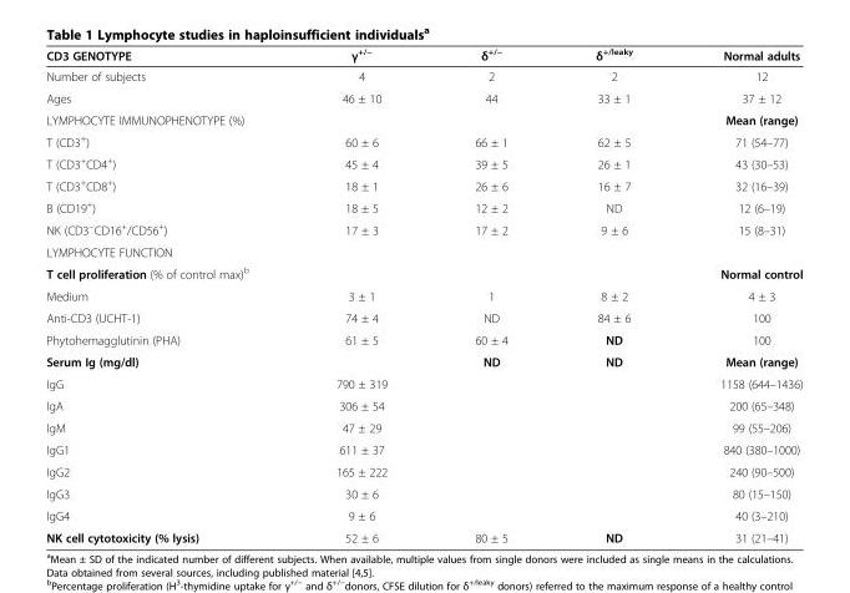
<table><thead><tr><td>CD3 GENOTYPE</td><td>γ<sup>+/−</sup></td><td>δ<sup>+/−</sup></td><td>δ<sup>+/leaky</sup></td><td>Normal adults</td></tr></thead><tbody><tr><td>Number of subjects</td><td>4</td><td>2</td><td>2</td><td>12</td></tr><tr><td>Ages</td><td>46 ± 10</td><td>44</td><td>33 ± 1</td><td>37 ± 12</td></tr><tr><td>LYMPHOCYTE IMMUNOPHENOTYPE (%)</td><td></td><td></td><td></td><td>Mean (range)</td></tr><tr><td>T (CD3<sup>+</sup>)</td><td>60 ± 6</td><td>66 ± 1</td><td>62 ± 5</td><td>71 (54–77)</td></tr><tr><td>T (CD3<sup>+</sup>CD4<sup>+</sup>)</td><td>45 ± 4</td><td>39 ± 5</td><td>26 ± 1</td><td>43 (30–53)</td></tr><tr><td>T (CD3<sup>+</sup>CD8<sup>+</sup>)</td><td>18 ± 1</td><td>26 ± 6</td><td>16 ± 7</td><td>32 (16–39)</td></tr><tr><td>B (CD19<sup>+</sup>)</td><td>18 ± 5</td><td>12 ± 2</td><td>ND</td><td>12 (6–19)</td></tr><tr><td>NK (CD3<sup>−</sup>CD16<sup>+</sup>/CD56<sup>+</sup>)</td><td>17 ± 3</td><td>17 ± 2</td><td>9 ± 6</td><td>15 (8–31)</td></tr><tr><td colspan="5">LYMPHOCYTE FUNCTION</td></tr><tr><td>T cell proliferation (% of control max)<sup>b</sup></td><td></td><td></td><td></td><td>Normal control</td></tr><tr><td>Medium</td><td>3 ± 1</td><td>1</td><td>8 ± 2</td><td>4 ± 3</td></tr><tr><td>Anti-CD3 (UCHT-1)</td><td>74 ± 4</td><td>ND</td><td>84 ± 6</td><td>100</td></tr><tr><td>Phytohemagglutinin (PHA)</td><td>61 ± 5</td><td>60 ± 4</td><td>ND</td><td>100</td></tr><tr><td>Serum Ig (mg/dl)</td><td></td><td>ND</td><td>ND</td><td>Mean (range)</td></tr><tr><td>IgG</td><td>790 ± 319</td><td></td><td></td><td>1158 (644–1436)</td></tr><tr><td>IgA</td><td>306 ± 54</td><td></td><td></td><td>200 (65–348)</td></tr><tr><td>IgM</td><td>47 ± 29</td><td></td><td></td><td>99 (55–206)</td></tr><tr><td>IgG1</td><td>611 ± 37</td><td></td><td></td><td>840 (380–1000)</td></tr><tr><td>IgG2</td><td>165 ± 222</td><td></td><td></td><td>240 (90–500)</td></tr><tr><td>IgG3</td><td>30 ± 6</td><td></td><td></td><td>80 (15–150)</td></tr><tr><td>IgG4</td><td>9 ± 6</td><td></td><td></td><td>40 (3–210)</td></tr><tr><td>NK cell cytotoxicity (% lysis)</td><td>52 ± 6</td><td>80 ± 5</td><td>ND</td><td>31 (21–41)</td></tr></tbody></table>